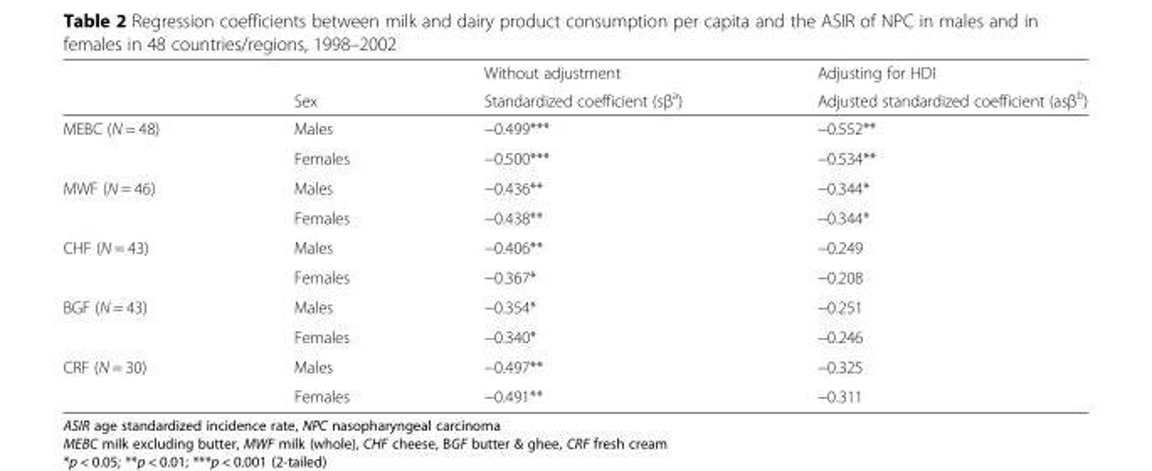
<table><thead><tr><td rowspan="2"></td><td rowspan="2">Sex</td><td rowspan="2">Without adjustment Standardized coefficient (sβ<sup>a</sup>)</td><td rowspan="2">Adjusting for HDI Adjusted standardized coefficient (asβ<sup>b</sup>)</td></tr><tr></tr></thead><tbody><tr><td rowspan="2">MEBC (N = 48)</td><td>Males</td><td>−0.499***</td><td>−0.552**</td></tr><tr><td>Females</td><td>−0.500***</td><td>−0.534**</td></tr><tr><td rowspan="2">MWF (N = 46)</td><td>Males</td><td>−0.436**</td><td>−0.344*</td></tr><tr><td>Females</td><td>−0.438**</td><td>−0.344*</td></tr><tr><td rowspan="2">CHF (N = 43)</td><td>Males</td><td>−0.406**</td><td>−0.249</td></tr><tr><td>Females</td><td>−0.367*</td><td>−0.208</td></tr><tr><td rowspan="2">BGF (N = 43)</td><td>Males</td><td>−0.354*</td><td>−0.251</td></tr><tr><td>Females</td><td>−0.340*</td><td>−0.246</td></tr><tr><td rowspan="2">CRF (N = 30)</td><td>Males</td><td>−0.497**</td><td>−0.325</td></tr><tr><td>Females</td><td>−0.491**</td><td>−0.311</td></tr></tbody></table>